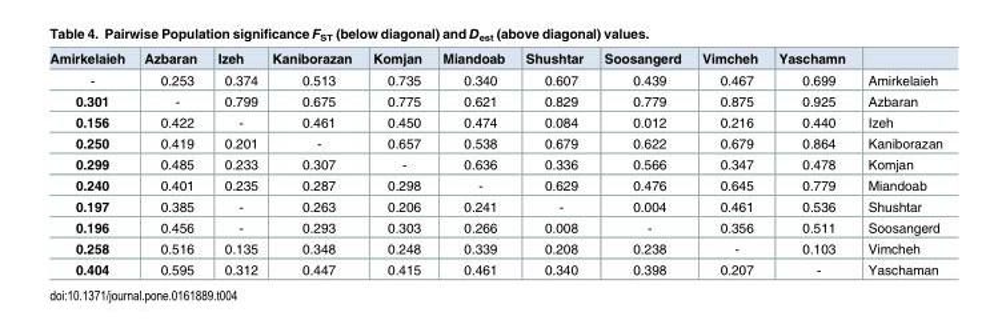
<table><thead><tr><td>Amirkelaieh</td><td>Azbaran</td><td>Izeh</td><td>Kaniborazan</td><td>Komjan</td><td>Miandoab</td><td>Shushtar</td><td>Soosangerd</td><td>Vimcheh</td><td>Yaschamn</td><td></td></tr></thead><tbody><tr><td>-</td><td>0.253</td><td>0.374</td><td>0.513</td><td>0.735</td><td>0.340</td><td>0.607</td><td>0.439</td><td>0.467</td><td>0.699</td><td>Amirkelaieh</td></tr><tr><td>0.301</td><td>-</td><td>0.799</td><td>0.675</td><td>0.775</td><td>0.621</td><td>0.829</td><td>0.779</td><td>0.875</td><td>0.925</td><td>Azbaran</td></tr><tr><td>0.156</td><td>0.422</td><td>-</td><td>0.461</td><td>0.450</td><td>0.474</td><td>0.084</td><td>0.012</td><td>0.216</td><td>0.440</td><td>Izeh</td></tr><tr><td>0.250</td><td>0.419</td><td>0.201</td><td>-</td><td>0.657</td><td>0.538</td><td>0.679</td><td>0.622</td><td>0.679</td><td>0.864</td><td>Kaniborazan</td></tr><tr><td>0.299</td><td>0.485</td><td>0.233</td><td>0.307</td><td>-</td><td>0.636</td><td>0.336</td><td>0.566</td><td>0.347</td><td>0.478</td><td>Komjan</td></tr><tr><td>0.240</td><td>0.401</td><td>0.235</td><td>0.287</td><td>0.298</td><td>-</td><td>0.629</td><td>0.476</td><td>0.645</td><td>0.779</td><td>Miandoab</td></tr><tr><td>0.197</td><td>0.385</td><td>-</td><td>0.263</td><td>0.206</td><td>0.241</td><td>-</td><td>0.004</td><td>0.461</td><td>0.536</td><td>Shushtar</td></tr><tr><td>0.196</td><td>0.456</td><td>-</td><td>0.293</td><td>0.303</td><td>0.266</td><td>0.008</td><td>-</td><td>0.356</td><td>0.511</td><td>Soosangerd</td></tr><tr><td>0.258</td><td>0.516</td><td>0.135</td><td>0.348</td><td>0.248</td><td>0.339</td><td>0.208</td><td>0.238</td><td>-</td><td>0.103</td><td>Vimcheh</td></tr><tr><td>0.404</td><td>0.595</td><td>0.312</td><td>0.447</td><td>0.415</td><td>0.461</td><td>0.340</td><td>0.398</td><td>0.207</td><td>-</td><td>Yaschaman</td></tr></tbody></table>